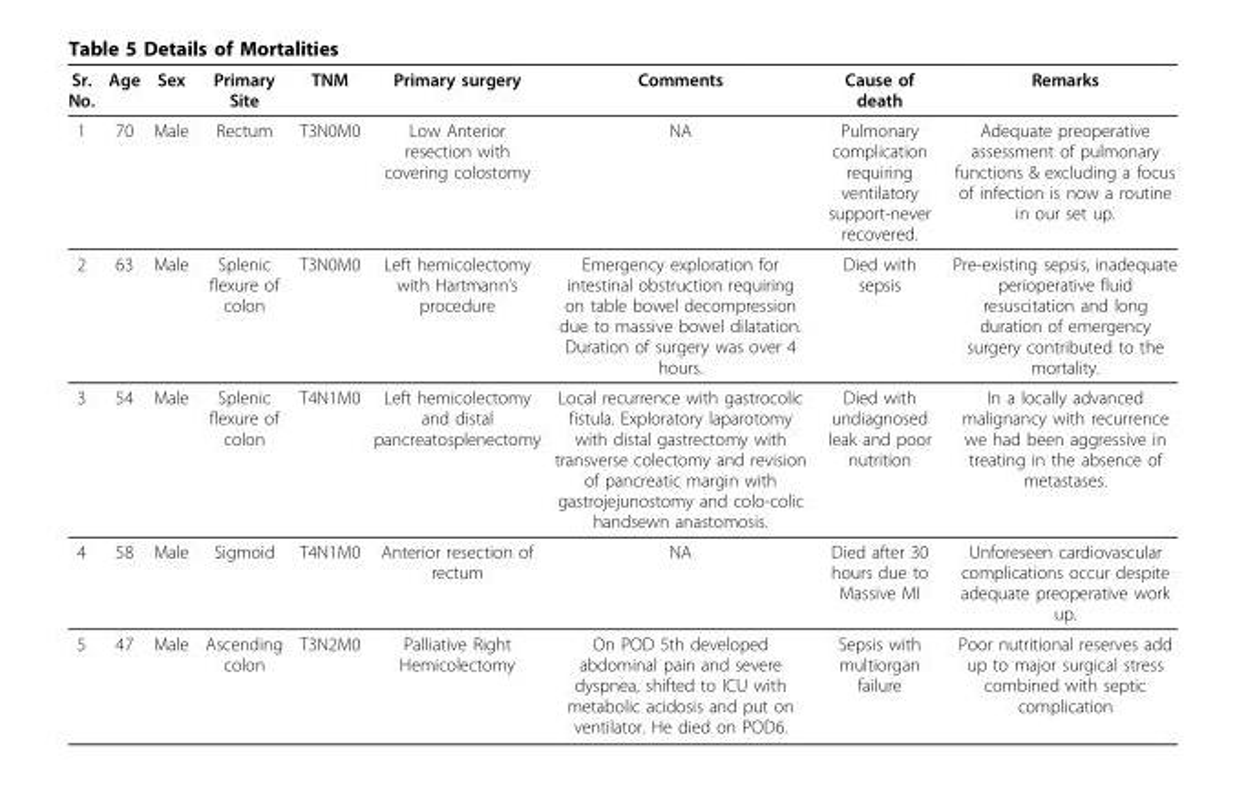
<table><thead><tr><td>Sr. No.</td><td>Age</td><td>Sex</td><td>Primary Site</td><td>TNM</td><td>Primary surgery</td><td>Comments</td><td>Cause of death</td><td>Remarks</td></tr></thead><tbody><tr><td>1</td><td>70</td><td>Male</td><td>Rectum</td><td>T3N0M0</td><td>Low Anterior resection with covering colostomy</td><td>NA</td><td>Pulmonary complication requiring ventilatory support-never recovered.</td><td>Adequate preoperative assessment of pulmonary functions &amp; excluding a focus of infection is now a routine in our set up.</td></tr><tr><td>2</td><td>63</td><td>Male</td><td>Splenic flexure of colon</td><td>T3N0M0</td><td>Left hemicolectomy with Hartmann’s procedure</td><td>Emergency exploration for intestinal obstruction requiring on table bowel decompression due to massive bowel dilatation. Duration of surgery was over 4 hours.</td><td>Died with sepsis</td><td>Pre-existing sepsis, inadequate perioperative fluid resuscitation and long duration of emergency surgery contributed to the mortality.</td></tr><tr><td>3</td><td>54</td><td>Male</td><td>Splenic flexure of colon</td><td>T4N1M0</td><td>Left hemicolectomy and distal pancreatosplenectomy</td><td>Local recurrence with gastrocolic fistula. Exploratory laparotomy with distal gastrectomy with transverse colectomy and revision of pancreatic margin with gastrojejunostomy and colo-colic handsewn anastomosis.</td><td>Died with undiagnosed leak and poor nutrition</td><td>In a locally advanced malignancy with recurrence we had been aggressive in treating in the absence of metastases.</td></tr><tr><td>4</td><td>58</td><td>Male</td><td>Sigmoid</td><td>T4N1M0</td><td>Anterior resection of rectum</td><td>NA</td><td>Died after 30 hours due to Massive MI</td><td>Unforeseen cardiovascular complications occur despite adequate preoperative work up.</td></tr><tr><td>5</td><td>47</td><td>Male</td><td>Ascending colon</td><td>T3N2M0</td><td>Palliative Right Hemicolectomy</td><td>On POD 5th developed abdominal pain and severe dyspnea, shifted to ICU with metabolic acidosis and put on ventilator. He died on POD6.</td><td>Sepsis with multiorgan failure</td><td>Poor nutritional reserves add up to major surgical stress combined with septic complication</td></tr></tbody></table>